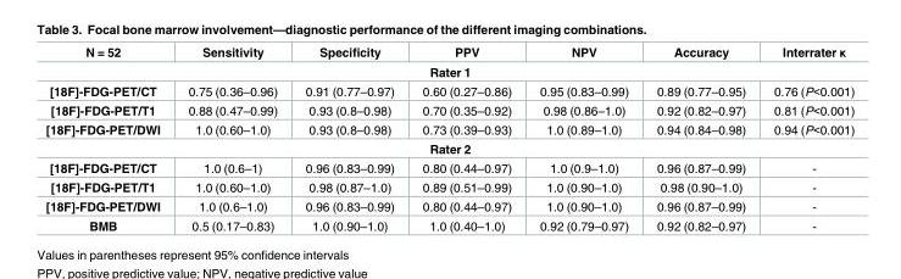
<table><thead><tr><td>N = 52</td><td>Sensitivity</td><td>Specificity</td><td>PPV</td><td>NPV</td><td>Accuracy</td><td>Interrater κ</td></tr></thead><tbody><tr><td colspan="7">Rater 1</td></tr><tr><td>[18F]-FDG-PET/CT</td><td>0.75 (0.36–0.96)</td><td>0.91 (0.77–0.97)</td><td>0.60 (0.27–0.86)</td><td>0.95 (0.83–0.99)</td><td>0.89 (0.77–0.95)</td><td>0.76 (P&lt;0.001)</td></tr><tr><td>[18F]-FDG-PET/T1</td><td>0.88 (0.47–0.99)</td><td>0.93 (0.8–0.98)</td><td>0.70 (0.35–0.92)</td><td>0.98 (0.86–1.0)</td><td>0.92 (0.82–0.97)</td><td>0.81 (P&lt;0.001)</td></tr><tr><td>[18F]-FDG-PET/DWI</td><td>1.0 (0.60–1.0)</td><td>0.93 (0.8–0.98)</td><td>0.73 (0.39–0.93)</td><td>1.0 (0.89–1.0)</td><td>0.94 (0.84–0.98)</td><td>0.94 (P&lt;0.001)</td></tr><tr><td colspan="7">Rater 2</td></tr><tr><td>[18F]-FDG-PET/CT</td><td>1.0 (0.6–1)</td><td>0.96 (0.83–0.99)</td><td>0.80 (0.44–0.97)</td><td>1.0 (0.9–1.0)</td><td>0.96 (0.87–0.99)</td><td>-</td></tr><tr><td>[18F]-FDG-PET/T1</td><td>1.0 (0.60–1.0)</td><td>0.98 (0.87–1.0)</td><td>0.89 (0.51–0.99)</td><td>1.0 (0.90–1.0)</td><td>0.98 (0.90–1.0)</td><td>-</td></tr><tr><td>[18F]-FDG-PET/DWI</td><td>1.0 (0.6–1.0)</td><td>0.96 (0.83–0.99)</td><td>0.80 (0.44–0.97)</td><td>1.0 (0.90–1.0)</td><td>0.96 (0.87–0.99)</td><td>-</td></tr><tr><td>BMB</td><td>0.5 (0.17–0.83)</td><td>1.0 (0.90–1.0)</td><td>1.0 (0.40–1.0)</td><td>0.92 (0.79–0.97)</td><td>0.92 (0.82–0.97)</td><td>-</td></tr></tbody></table>